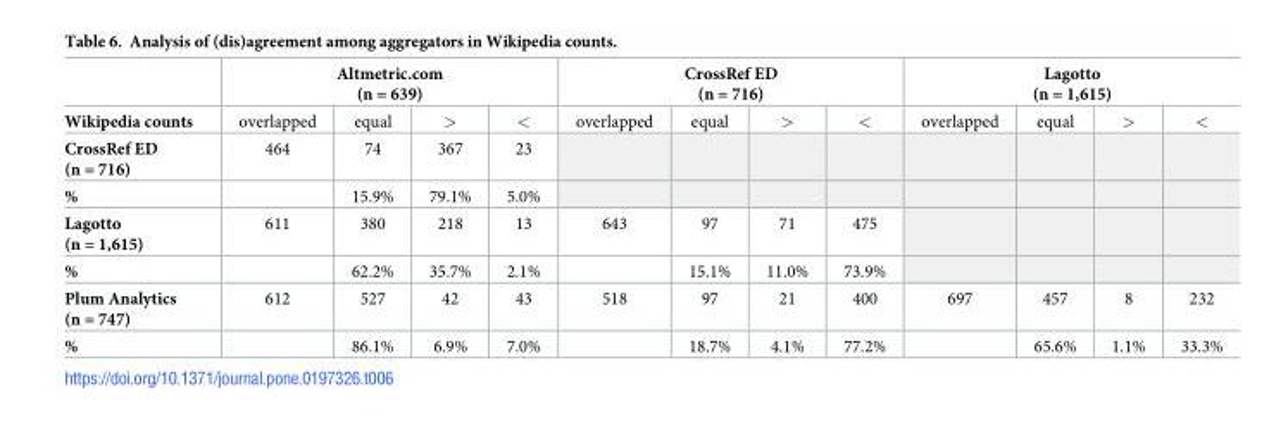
<table><thead><tr><td rowspan="2">Wikipedia counts</td><td colspan="4">Altmetric.com (n = 639)</td><td colspan="4">CrossRef ED (n = 716)</td><td colspan="4">Lagotto (n = 1,615)</td></tr><tr><td>overlapped</td><td>equal</td><td>&gt;</td><td>&lt;</td><td>overlapped</td><td>equal</td><td>&gt;</td><td>&lt;</td><td>overlapped</td><td>equal</td><td>&gt;</td><td>&lt;</td></tr></thead><tbody><tr><td>CrossRef ED (n = 716)</td><td>464</td><td>74</td><td>367</td><td>23</td><td></td><td></td><td></td><td></td><td></td><td></td><td></td><td></td></tr><tr><td>%</td><td></td><td>15.9%</td><td>79.1%</td><td>5.0%</td><td></td><td></td><td></td><td></td><td></td><td></td><td></td><td></td></tr><tr><td>Lagotto (n = 1,615)</td><td>611</td><td>380</td><td>218</td><td>13</td><td>643</td><td>97</td><td>71</td><td>475</td><td></td><td></td><td></td><td></td></tr><tr><td>%</td><td></td><td>62.2%</td><td>35.7%</td><td>2.1%</td><td></td><td>15.1%</td><td>11.0%</td><td>73.9%</td><td></td><td></td><td></td><td></td></tr><tr><td>Plum Analytics (n = 747)</td><td>612</td><td>527</td><td>42</td><td>43</td><td>518</td><td>97</td><td>21</td><td>400</td><td>697</td><td>457</td><td>8</td><td>232</td></tr><tr><td>%</td><td></td><td>86.1%</td><td>6.9%</td><td>7.0%</td><td></td><td>18.7%</td><td>4.1%</td><td>77.2%</td><td></td><td>65.6%</td><td>1.1%</td><td>33.3%</td></tr></tbody></table>